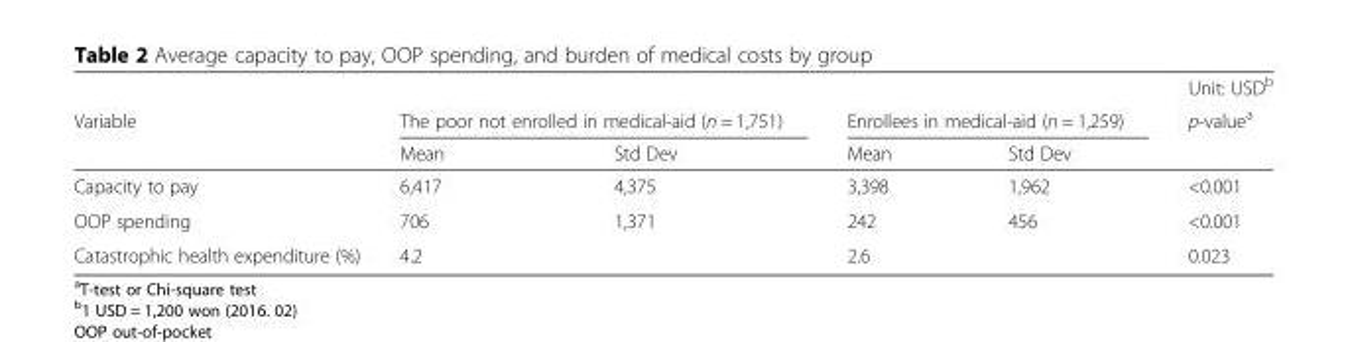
<table><thead><tr><td rowspan="3">Variable</td><td></td><td></td><td></td><td></td><td rowspan="3">Unit: USD<sup>b</sup> p-value<sup>a</sup></td></tr><tr><td colspan="2">The poor not enrolled in medical-aid (n = 1,751)</td><td colspan="2">Enrollees in medical-aid (n = 1,259)</td></tr><tr><td>Mean</td><td>Std Dev</td><td>Mean</td><td>Std Dev</td></tr></thead><tbody><tr><td>Capacity to pay</td><td>6,417</td><td>4,375</td><td>3,398</td><td>1,962</td><td>&lt;0.001</td></tr><tr><td>OOP spending</td><td>706</td><td>1,371</td><td>242</td><td>456</td><td>&lt;0.001</td></tr><tr><td>Catastrophic health expenditure (%)</td><td colspan="2">4.2</td><td colspan="2">2.6</td><td>0.023</td></tr></tbody></table>